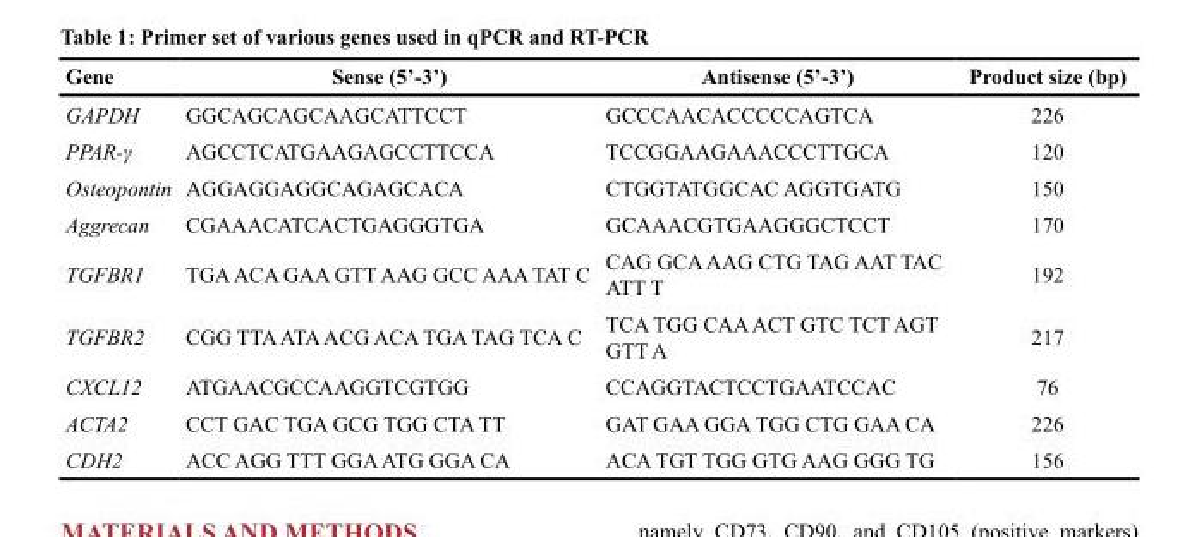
<table><thead><tr><td>Gene</td><td>Sense (5’-3’)</td><td>Antisense (5’-3’)</td><td>Product size (bp)</td></tr></thead><tbody><tr><td>GAPDH</td><td>GGCAGCAGCAAGCATTCCT</td><td>GCCCAACACCCCCAGTCA</td><td>226</td></tr><tr><td>PPAR-γ</td><td>AGCCTCATGAAGAGCCTTCCA</td><td>TCCGGAAGAAACCCTTGCA</td><td>120</td></tr><tr><td>Osteopontin</td><td>AGGAGGAGGCAGAGCACA</td><td>CTGGTATGGCAC AGGTGATG</td><td>150</td></tr><tr><td>Aggrecan</td><td>CGAAACATCACTGAGGGTGA</td><td>GCAAACGTGAAGGGCTCCT</td><td>170</td></tr><tr><td>TGFBR1</td><td>TGA ACA GAA GTT AAG GCC AAA TAT C</td><td>CAG GCA AAG CTG TAG AAT TAC ATT T</td><td>192</td></tr><tr><td>TGFBR2</td><td>CGG TTA ATA ACG ACA TGA TAG TCA C</td><td>TCA TGG CAA ACT GTC TCT AGT GTT A</td><td>217</td></tr><tr><td>CXCL12</td><td>ATGAACGCCAAGGTCGTGG</td><td>CCAGGTACTCCTGAATCCAC</td><td>76</td></tr><tr><td>ACTA2</td><td>CCT GAC TGA GCG TGG CTA TT</td><td>GAT GAA GGA TGG CTG GAA CA</td><td>226</td></tr><tr><td>CDH2</td><td>ACC AGG TTT GGA ATG GGA CA</td><td>ACA TGT TGG GTG AAG GGG TG</td><td>156</td></tr></tbody></table>